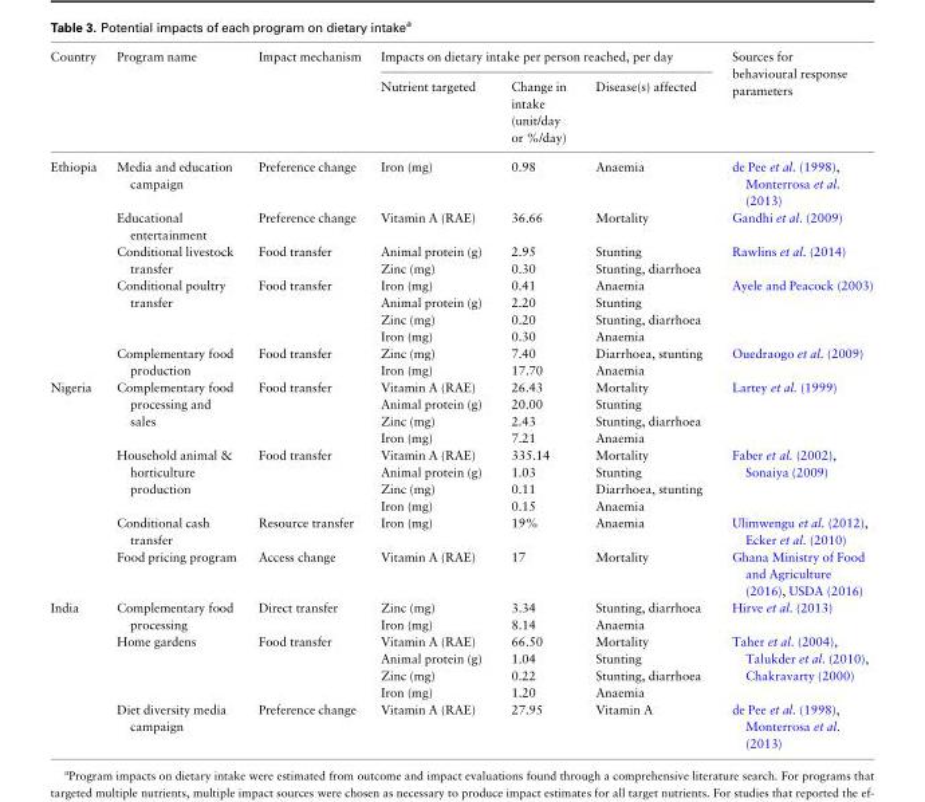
<table><thead><tr><td rowspan="2">Country</td><td rowspan="2">Program name</td><td rowspan="2">Impact mechanism</td><td colspan="3">Impacts on dietary intake per person reached, per day</td><td rowspan="2">Sources for behavioural response parameters</td></tr><tr><td>Nutrient targeted</td><td>Change in intake (unit/day or %/day)</td><td>Disease(s) affected</td></tr></thead><tbody><tr><td rowspan="10">Ethiopia</td><td>Media and education campaign</td><td>Preference change</td><td>Iron (mg)</td><td>0.98</td><td>Anaemia</td><td>de Pee et al. (1998), Monterrosa et al. (2013)</td></tr><tr><td>Educational entertainment</td><td>Preference change</td><td>Vitamin A (RAE)</td><td>36.66</td><td>Mortality</td><td>Gandhi et al. (2009)</td></tr><tr><td rowspan="2">Conditional livestock transfer</td><td rowspan="2">Food transfer</td><td>Animal protein (g)</td><td>2.95</td><td>Stunting</td><td rowspan="2">Rawlins et al. (2014)</td></tr><tr><td>Zinc (mg)</td><td>0.30</td><td>Stunting, diarrhoea</td></tr><tr><td rowspan="4">Conditional poultry transfer</td><td rowspan="4">Food transfer</td><td>Iron (mg)</td><td>0.41</td><td>Anaemia</td><td rowspan="4">Ayele and Peacock (2003)</td></tr><tr><td>Animal protein (g)</td><td>2.20</td><td>Stunting</td></tr><tr><td>Zinc (mg)</td><td>0.20</td><td>Stunting, diarrhoea</td></tr><tr><td>Iron (mg)</td><td>0.30</td><td>Anaemia</td></tr><tr><td rowspan="2">Complementary food production</td><td rowspan="2">Food transfer</td><td>Zinc (mg)</td><td>7.40</td><td>Diarrhoea, stunting</td><td rowspan="2">Ouedraogo et al. (2009)</td></tr><tr><td>Iron (mg)</td><td>17.70</td><td>Anaemia</td></tr><tr><td rowspan="10">Nigeria</td><td rowspan="4">Complementary food processing and sales</td><td rowspan="4">Food transfer</td><td>Vitamin A (RAE)</td><td>26.43</td><td>Mortality</td><td rowspan="4">Lartey et al. (1999)</td></tr><tr><td>Animal protein (g)</td><td>20.00</td><td>Stunting</td></tr><tr><td>Zinc (mg)</td><td>2.43</td><td>Stunting, diarrhoea</td></tr><tr><td>Iron (mg)</td><td>7.21</td><td>Anaemia</td></tr><tr><td rowspan="4">Household animal &amp; horticulture production</td><td rowspan="4">Food transfer</td><td>Vitamin A (RAE)</td><td>335.14</td><td>Mortality</td><td rowspan="4">Faber et al. (2002), Sonaiya (2009)</td></tr><tr><td>Animal protein (g)</td><td>1.03</td><td>Stunting</td></tr><tr><td>Zinc (mg)</td><td>0.11</td><td>Diarrhoea, stunting</td></tr><tr><td>Iron (mg)</td><td>0.15</td><td>Anaemia</td></tr><tr><td>Conditional cash transfer</td><td>Resource transfer</td><td>Iron (mg)</td><td>19%</td><td>Anaemia</td><td>Ulimwengu et al. (2012), Ecker et al. (2010)</td></tr><tr><td>Food pricing program</td><td>Access change</td><td>Vitamin A (RAE)</td><td>17</td><td>Mortality</td><td>Ghana Ministry of Food and Agriculture (2016), USDA (2016)</td></tr><tr><td rowspan="7">India</td><td rowspan="2">Complementary food processing</td><td rowspan="2">Direct transfer</td><td>Zinc (mg)</td><td>3.34</td><td>Stunting, diarrhoea</td><td rowspan="2">Hirve et al. (2013)</td></tr><tr><td>Iron (mg)</td><td>8.14</td><td>Anaemia</td></tr><tr><td rowspan="4">Home gardens</td><td rowspan="4">Food transfer</td><td>Vitamin A (RAE)</td><td>66.50</td><td>Mortality</td><td rowspan="4">Taher et al. (2004), Talukder et al. (2010), Chakravarty (2000)</td></tr><tr><td>Animal protein (g)</td><td>1.04</td><td>Stunting</td></tr><tr><td>Zinc (mg)</td><td>0.22</td><td>Stunting, diarrhoea</td></tr><tr><td>Iron (mg)</td><td>1.20</td><td>Anaemia</td></tr><tr><td>Diet diversity media campaign</td><td>Preference change</td><td>Vitamin A (RAE)</td><td>27.95</td><td>Vitamin A</td><td>de Pee et al. (1998), Monterrosa et al. (2013)</td></tr></tbody></table>